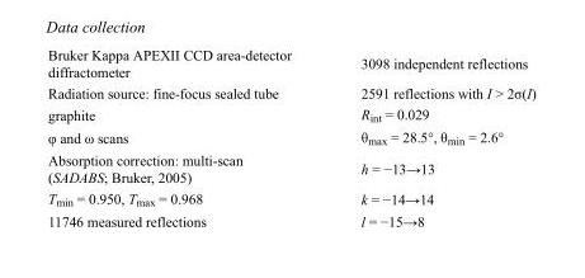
<table><tbody><tr><td>Bruker Kappa APEXII CCD area-detector diffractometer</td><td>3098 independent reflections</td></tr><tr><td>Radiation source: fine-focus sealed tube</td><td>2591 reflections with I &gt; 2σ(I)</td></tr><tr><td>graphite</td><td>R<sub>int</sub> = 0.029</td></tr><tr><td>φ and ω scans</td><td>θ<sub>max</sub> = 28.5°, θ<sub>min</sub> = 2.6°</td></tr><tr><td>Absorption correction: multi-scan (SADABS; Bruker, 2005)</td><td>h = −13→13</td></tr><tr><td>T<sub>min</sub> = 0.950, T<sub>max</sub> = 0.968</td><td>k = −14→14</td></tr><tr><td>11746 measured reflections</td><td>l = −15→8</td></tr></tbody></table>